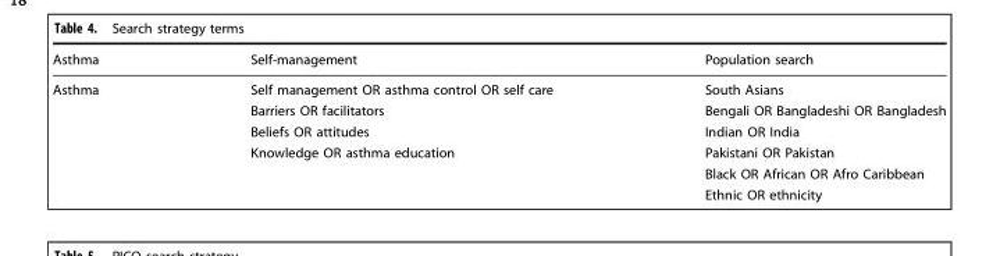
<table><thead><tr><td>Asthma</td><td>Self-management</td><td>Population search</td></tr></thead><tbody><tr><td rowspan="6">Asthma</td><td>Self management OR asthma control OR self care</td><td>South Asians</td></tr><tr><td>Barriers OR facilitators</td><td>Bengali OR Bangladeshi OR Bangladesh</td></tr><tr><td>Beliefs OR attitudes</td><td>Indian OR India</td></tr><tr><td rowspan="3">Knowledge OR asthma education</td><td>Pakistani OR Pakistan</td></tr><tr><td>Black OR African OR Afro Caribbean</td></tr><tr><td>Ethnic OR ethnicity</td></tr></tbody></table>